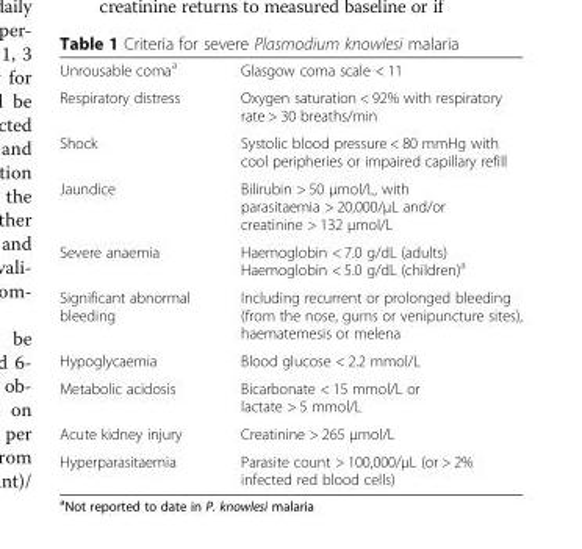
<table><tbody><tr><td>Unrousable coma<sup>a</sup></td><td>Glasgow coma scale &lt; 11</td></tr><tr><td>Respiratory distress</td><td>Oxygen saturation &lt; 92% with respiratory rate &gt; 30 breaths/min</td></tr><tr><td>Shock</td><td>Systolic blood pressure &lt; 80 mmHg with cool peripheries or impaired capillary refill</td></tr><tr><td>Jaundice</td><td>Bilirubin &gt; 50 μmol/L, with parasitaemia &gt; 20,000/μL and/or creatinine &gt; 132 μmol/L</td></tr><tr><td>Severe anaemia</td><td>Haemoglobin &lt; 7.0 g/dL (adults) Haemoglobin &lt; 5.0 g/dL (children)<sup>a</sup></td></tr><tr><td>Significant abnormal bleeding</td><td>Including recurrent or prolonged bleeding (from the nose, gums or venipuncture sites), haematemesis or melena</td></tr><tr><td>Hypoglycaemia</td><td>Blood glucose &lt; 2.2 mmol/L</td></tr><tr><td>Metabolic acidosis</td><td>Bicarbonate &lt; 15 mmol/L or lactate &gt; 5 mmol/L</td></tr><tr><td>Acute kidney injury</td><td>Creatinine &gt; 265 μmol/L</td></tr><tr><td>Hyperparasitaemia</td><td>Parasite count &gt; 100,000/μL (or &gt; 2% infected red blood cells)</td></tr></tbody></table>